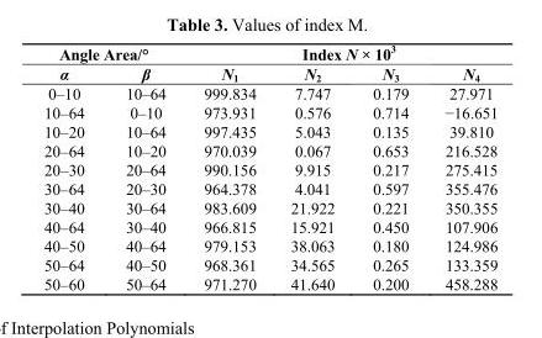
<table><thead><tr><td colspan="2">Angle Area/°</td><td colspan="4">Index N × 10<sup>3</sup></td></tr><tr><td>α</td><td>β</td><td>N<sub>1</sub></td><td>N<sub>2</sub></td><td>N<sub>3</sub></td><td>N<sub>4</sub></td></tr></thead><tbody><tr><td>0–10</td><td>10–64</td><td>999.834</td><td>7.747</td><td>0.179</td><td>27.971</td></tr><tr><td>10–64</td><td>0–10</td><td>973.931</td><td>0.576</td><td>0.714</td><td>−16.651</td></tr><tr><td>10–20</td><td>10–64</td><td>997.435</td><td>5.043</td><td>0.135</td><td>39.810</td></tr><tr><td>20–64</td><td>10–20</td><td>970.039</td><td>0.067</td><td>0.653</td><td>216.528</td></tr><tr><td>20–30</td><td>20–64</td><td>990.156</td><td>9.915</td><td>0.217</td><td>275.415</td></tr><tr><td>30–64</td><td>20–30</td><td>964.378</td><td>4.041</td><td>0.597</td><td>355.476</td></tr><tr><td>30–40</td><td>30–64</td><td>983.609</td><td>21.922</td><td>0.221</td><td>350.355</td></tr><tr><td>40–64</td><td>30–40</td><td>966.815</td><td>15.921</td><td>0.450</td><td>107.906</td></tr><tr><td>40–50</td><td>40–64</td><td>979.153</td><td>38.063</td><td>0.180</td><td>124.986</td></tr><tr><td>50–64</td><td>40–50</td><td>968.361</td><td>34.565</td><td>0.265</td><td>133.359</td></tr><tr><td>50–60</td><td>50–64</td><td>971.270</td><td>41.640</td><td>0.200</td><td>458.288</td></tr></tbody></table>